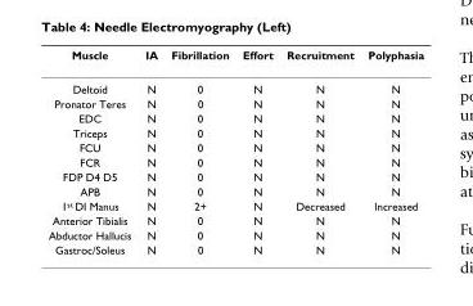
<table><thead><tr><td>Muscle</td><td>IA</td><td>Fibrillation</td><td>Effort</td><td>Recruitment</td><td>Polyphasia</td></tr></thead><tbody><tr><td>Deltoid</td><td>N</td><td>0</td><td>N</td><td>N</td><td>N</td></tr><tr><td>Pronator Teres</td><td>N</td><td>0</td><td>N</td><td>N</td><td>N</td></tr><tr><td>EDC</td><td>N</td><td>0</td><td>N</td><td>N</td><td>N</td></tr><tr><td>Triceps</td><td>N</td><td>0</td><td>N</td><td>N</td><td>N</td></tr><tr><td>FCU</td><td>N</td><td>0</td><td>N</td><td>N</td><td>N</td></tr><tr><td>FCR</td><td>N</td><td>0</td><td>N</td><td>N</td><td>N</td></tr><tr><td>FDP D4 D5</td><td>N</td><td>0</td><td>N</td><td>N</td><td>N</td></tr><tr><td>APB</td><td>N</td><td>0</td><td>N</td><td>N</td><td>N</td></tr><tr><td>1<sup>st</sup> DI Manus</td><td>N</td><td>2+</td><td>N</td><td>Decreased</td><td>Increased</td></tr><tr><td>Anterior Tibialis</td><td>N</td><td>0</td><td>N</td><td>N</td><td>N</td></tr><tr><td>Abductor Hallucis</td><td>N</td><td>0</td><td>N</td><td>N</td><td>N</td></tr><tr><td>Gastroc/Soleus</td><td>N</td><td>0</td><td>N</td><td>N</td><td>N</td></tr></tbody></table>